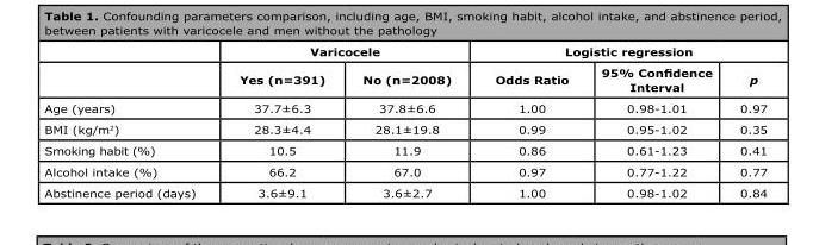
<table><thead><tr><td rowspan="2"></td><td colspan="2">Varicocele</td><td colspan="3">Logistic regression</td></tr><tr><td>Yes (n=391)</td><td>No (n=2008)</td><td>Odds Ratio</td><td>95% Confidence Interval</td><td>p</td></tr></thead><tbody><tr><td>Age (years)</td><td>37.7±6.3</td><td>37.8±6.6</td><td>1.00</td><td>0.98-1.01</td><td>0.97</td></tr><tr><td>BMI (kg/m<sup>2</sup>)</td><td>28.3±4.4</td><td>28.1±19.8</td><td>0.99</td><td>0.95-1.02</td><td>0.35</td></tr><tr><td>Smoking habit (%)</td><td>10.5</td><td>11.9</td><td>0.86</td><td>0.61-1.23</td><td>0.41</td></tr><tr><td>Alcohol intake (%)</td><td>66.2</td><td>67.0</td><td>0.97</td><td>0.77-1.22</td><td>0.77</td></tr><tr><td>Abstinence period (days)</td><td>3.6±9.1</td><td>3.6±2.7</td><td>1.00</td><td>0.98-1.02</td><td>0.84</td></tr></tbody></table>